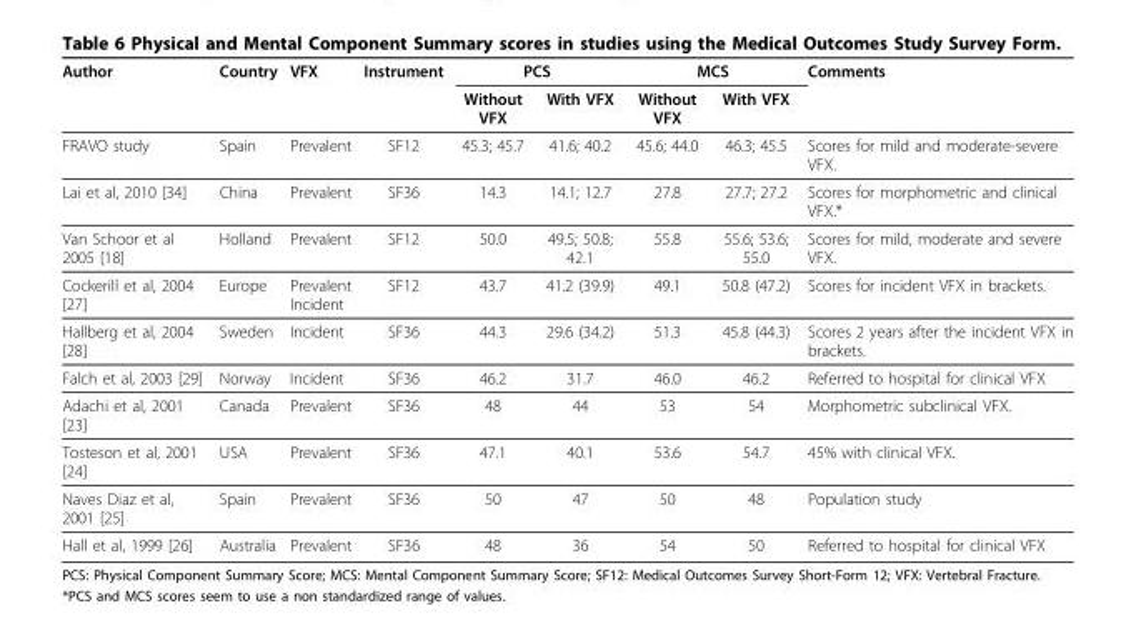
<table><thead><tr><td rowspan="2">Author</td><td rowspan="2">Country</td><td rowspan="2">VFX</td><td rowspan="2">Instrument</td><td colspan="2">PCS</td><td colspan="2">MCS</td><td rowspan="2">Comments</td></tr><tr><td>Without VFX</td><td>With VFX</td><td>Without VFX</td><td>With VFX</td></tr></thead><tbody><tr><td>FRAVO study</td><td>Spain</td><td>Prevalent</td><td>SF12</td><td>45.3; 45.7</td><td>41.6; 40.2</td><td>45.6; 44.0</td><td>46.3; 45.5</td><td>Scores for mild and moderate-severe VFX.</td></tr><tr><td>Lai et al, 2010 [34]</td><td>China</td><td>Prevalent</td><td>SF36</td><td>14.3</td><td>14.1; 12.7</td><td>27.8</td><td>27.7; 27.2</td><td>Scores for morphometric and clinical VFX.*</td></tr><tr><td>Van Schoor et al 2005 [18]</td><td>Holland</td><td>Prevalent</td><td>SF12</td><td>50.0</td><td>49.5; 50.8; 42.1</td><td>55.8</td><td>55.6; 53.6; 55.0</td><td>Scores for mild, moderate and severe VFX.</td></tr><tr><td>Cockerill et al, 2004 [27]</td><td>Europe</td><td>Prevalent Incident</td><td>SF12</td><td>43.7</td><td>41.2 (39.9)</td><td>49.1</td><td>50.8 (47.2)</td><td>Scores for incident VFX in brackets.</td></tr><tr><td>Hallberg et al, 2004 [28]</td><td>Sweden</td><td>Incident</td><td>SF36</td><td>44.3</td><td>29.6 (34.2)</td><td>51.3</td><td>45.8 (44.3)</td><td>Scores 2 years after the incident VFX in brackets.</td></tr><tr><td>Falch et al, 2003 [29]</td><td>Norway</td><td>Incident</td><td>SF36</td><td>46.2</td><td>31.7</td><td>46.0</td><td>46.2</td><td>Referred to hospital for clinical VFX</td></tr><tr><td>Adachi et al, 2001 [23]</td><td>Canada</td><td>Prevalent</td><td>SF36</td><td>48</td><td>44</td><td>53</td><td>54</td><td>Morphometric subclinical VFX.</td></tr><tr><td>Tosteson et al, 2001 [24]</td><td>USA</td><td>Prevalent</td><td>SF36</td><td>47.1</td><td>40.1</td><td>53.6</td><td>54.7</td><td>45% with clinical VFX.</td></tr><tr><td>Naves Diaz et al, 2001 [25]</td><td>Spain</td><td>Prevalent</td><td>SF36</td><td>50</td><td>47</td><td>50</td><td>48</td><td>Population study</td></tr><tr><td>Hall et al, 1999 [26]</td><td>Australia</td><td>Prevalent</td><td>SF36</td><td>48</td><td>36</td><td>54</td><td>50</td><td>Referred to hospital for clinical VFX</td></tr></tbody></table>